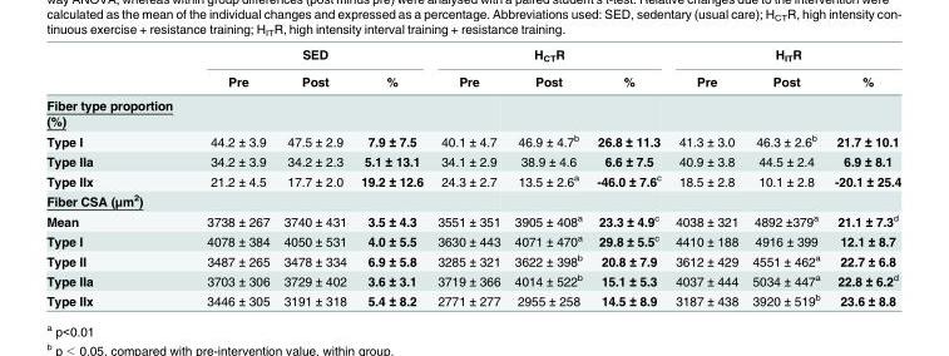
<table><thead><tr><td rowspan="2"></td><td colspan="3">SED</td><td colspan="3">H<sub>CT</sub>R</td><td colspan="3">H<sub>IT</sub>R</td></tr><tr><td>Pre</td><td>Post</td><td>%</td><td>Pre</td><td>Post</td><td>%</td><td>Pre</td><td>Post</td><td>%</td></tr></thead><tbody><tr><td colspan="10">Fiber type proportion (%)</td></tr><tr><td>Type I</td><td>44.2 ± 3.9</td><td>47.5 ± 2.9</td><td>7.9 ± 7.5</td><td>40.1 ± 4.7</td><td>46.9 ± 4.7<sup>b</sup></td><td>26.8 ± 11.3</td><td>41.3 ± 3.0</td><td>46.3 ± 2.6<sup>b</sup></td><td>21.7 ± 10.1</td></tr><tr><td>Type IIa</td><td>34.2 ± 3.9</td><td>34.2 ± 2.3</td><td>5.1 ± 13.1</td><td>34.1 ± 2.9</td><td>38.9 ± 4.6</td><td>6.6 ± 7.5</td><td>40.9 ± 3.8</td><td>44.5 ± 2.4</td><td>6.9 ± 8.1</td></tr><tr><td>Type IIx</td><td>21.2 ± 4.5</td><td>17.7 ± 2.0</td><td>19.2 ± 12.6</td><td>24.3 ± 2.7</td><td>13.5 ± 2.6<sup>a</sup></td><td>-46.0 ± 7.6<sup>c</sup></td><td>18.5 ± 2.8</td><td>10.1 ± 2.8</td><td>-20.1 ± 25.4</td></tr><tr><td colspan="10">Fiber CSA (μm<sup>2</sup>)</td></tr><tr><td>Mean</td><td>3738 ± 267</td><td>3740 ± 431</td><td>3.5 ± 4.3</td><td>3551 ± 351</td><td>3905 ± 408<sup>a</sup></td><td>23.3 ± 4.9<sup>c</sup></td><td>4038 ± 321</td><td>4892 ±379<sup>a</sup></td><td>21.1 ± 7.3<sup>d</sup></td></tr><tr><td>Type I</td><td>4078 ± 384</td><td>4050 ± 531</td><td>4.0 ± 5.5</td><td>3630 ± 443</td><td>4071 ± 470<sup>a</sup></td><td>29.8 ± 5.5<sup>c</sup></td><td>4410 ± 188</td><td>4916 ± 399</td><td>12.1 ± 8.7</td></tr><tr><td>Type II</td><td>3487 ± 265</td><td>3478 ± 334</td><td>6.9 ± 5.8</td><td>3285 ± 321</td><td>3622 ± 398<sup>b</sup></td><td>20.8 ± 7.9</td><td>3612 ± 429</td><td>4551 ± 462<sup>a</sup></td><td>22.7 ± 6.8</td></tr><tr><td>Type IIa</td><td>3703 ± 306</td><td>3729 ± 402</td><td>3.6 ± 3.1</td><td>3719 ± 366</td><td>4014 ± 522<sup>b</sup></td><td>15.1 ± 5.3</td><td>4037 ± 444</td><td>5034 ± 447<sup>a</sup></td><td>22.8 ± 6.2<sup>d</sup></td></tr><tr><td>Type IIx</td><td>3446 ± 305</td><td>3191 ± 318</td><td>5.4 ± 8.2</td><td>2771 ± 277</td><td>2955 ± 258</td><td>14.5 ± 8.9</td><td>3187 ± 438</td><td>3920 ± 519<sup>b</sup></td><td>23.6 ± 8.8</td></tr></tbody></table>